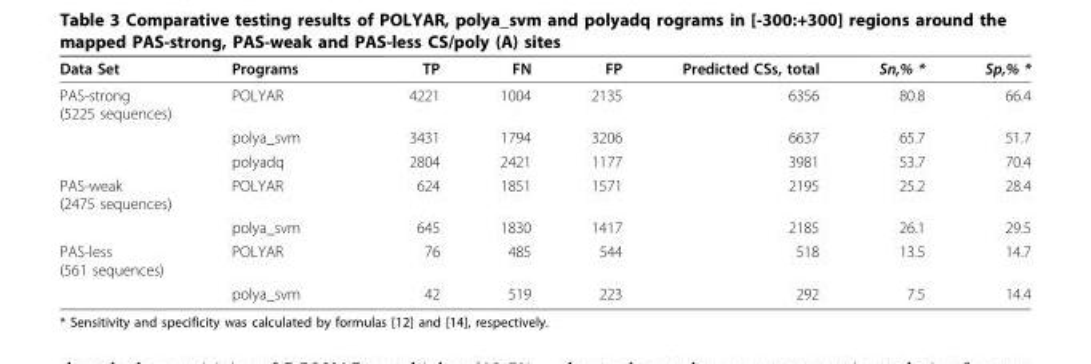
<table><thead><tr><td>Data Set</td><td>Programs</td><td>TP</td><td>FN</td><td>FP</td><td>Predicted CSs, total</td><td>Sn,% *</td><td>Sp,% *</td></tr></thead><tbody><tr><td rowspan="3">PAS-strong (5225 sequences)</td><td>POLYAR</td><td>4221</td><td>1004</td><td>2135</td><td>6356</td><td>80.8</td><td>66.4</td></tr><tr><td>polya_svm</td><td>3431</td><td>1794</td><td>3206</td><td>6637</td><td>65.7</td><td>51.7</td></tr><tr><td>polyadq</td><td>2804</td><td>2421</td><td>1177</td><td>3981</td><td>53.7</td><td>70.4</td></tr><tr><td rowspan="2">PAS-weak (2475 sequences)</td><td>POLYAR</td><td>624</td><td>1851</td><td>1571</td><td>2195</td><td>25.2</td><td>28.4</td></tr><tr><td>polya_svm</td><td>645</td><td>1830</td><td>1417</td><td>2185</td><td>26.1</td><td>29.5</td></tr><tr><td rowspan="2">PAS-less (561 sequences)</td><td>POLYAR</td><td>76</td><td>485</td><td>544</td><td>518</td><td>13.5</td><td>14.7</td></tr><tr><td>polya_svm</td><td>42</td><td>519</td><td>223</td><td>292</td><td>7.5</td><td>14.4</td></tr></tbody></table>